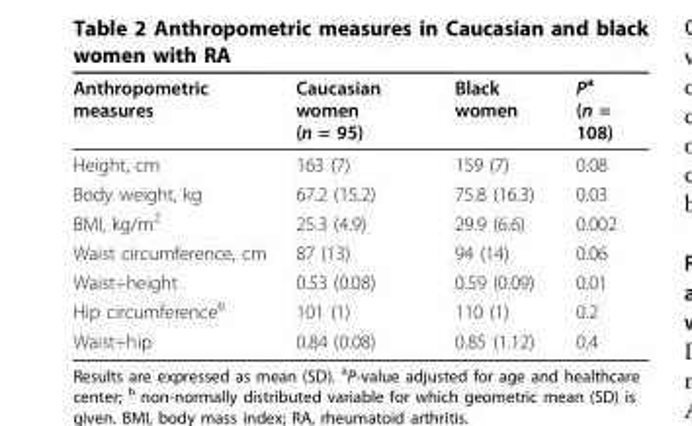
<table><thead><tr><td>Anthropometric measures</td><td>Caucasian women (n = 95)</td><td>Black women</td><td>P<sup>a</sup> (n = 108)</td></tr></thead><tbody><tr><td>Height, cm</td><td>163 (7)</td><td>159 (7)</td><td>0.08</td></tr><tr><td>Body weight, kg</td><td>67.2 (15.2)</td><td>75.8 (16.3)</td><td>0.03</td></tr><tr><td>BMI, kg/m<sup>2</sup></td><td>25.3 (4.9)</td><td>29.9 (6.6)</td><td>0.002</td></tr><tr><td>Waist circumference, cm</td><td>87 (13)</td><td>94 (14)</td><td>0.06</td></tr><tr><td>Waist÷height</td><td>0.53 (0.08)</td><td>0.59 (0.09)</td><td>0.01</td></tr><tr><td>Hip circumference<sup>b</sup></td><td>101 (1)</td><td>110 (1)</td><td>0.2</td></tr><tr><td>Waist÷hip</td><td>0.84 (0.08)</td><td>0.85 (1.12)</td><td>0.4</td></tr></tbody></table>